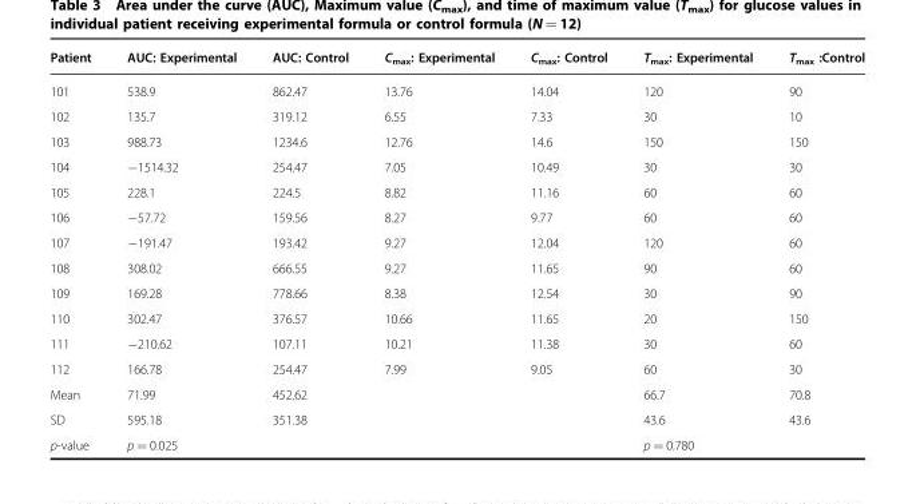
<table><thead><tr><td>Patient</td><td>AUC: Experimental</td><td>AUC: Control</td><td>C<sub>max</sub>: Experimental</td><td>C<sub>max</sub>: Control</td><td>T<sub>max</sub>: Experimental</td><td>T<sub>max</sub> :Control</td></tr></thead><tbody><tr><td>101</td><td>538.9</td><td>862.47</td><td>13.76</td><td>14.04</td><td>120</td><td>90</td></tr><tr><td>102</td><td>135.7</td><td>319.12</td><td>6.55</td><td>7.33</td><td>30</td><td>10</td></tr><tr><td>103</td><td>988.73</td><td>1234.6</td><td>12.76</td><td>14.6</td><td>150</td><td>150</td></tr><tr><td>104</td><td>−1514.32</td><td>254.47</td><td>7.05</td><td>10.49</td><td>30</td><td>30</td></tr><tr><td>105</td><td>228.1</td><td>224.5</td><td>8.82</td><td>11.16</td><td>60</td><td>60</td></tr><tr><td>106</td><td>−57.72</td><td>159.56</td><td>8.27</td><td>9.77</td><td>60</td><td>60</td></tr><tr><td>107</td><td>−191.47</td><td>193.42</td><td>9.27</td><td>12.04</td><td>120</td><td>60</td></tr><tr><td>108</td><td>308.02</td><td>666.55</td><td>9.27</td><td>11.65</td><td>90</td><td>60</td></tr><tr><td>109</td><td>169.28</td><td>778.66</td><td>8.38</td><td>12.54</td><td>30</td><td>90</td></tr><tr><td>110</td><td>302.47</td><td>376.57</td><td>10.66</td><td>11.65</td><td>20</td><td>150</td></tr><tr><td>111</td><td>−210.62</td><td>107.11</td><td>10.21</td><td>11.38</td><td>30</td><td>60</td></tr><tr><td>112</td><td>166.78</td><td>254.47</td><td>7.99</td><td>9.05</td><td>60</td><td>30</td></tr><tr><td>Mean</td><td>71.99</td><td>452.62</td><td></td><td></td><td>66.7</td><td>70.8</td></tr><tr><td>SD</td><td>595.18</td><td>351.38</td><td></td><td></td><td>43.6</td><td>43.6</td></tr><tr><td>p-value</td><td colspan="2">p = 0.025</td><td></td><td></td><td colspan="2">p = 0.780</td></tr></tbody></table>